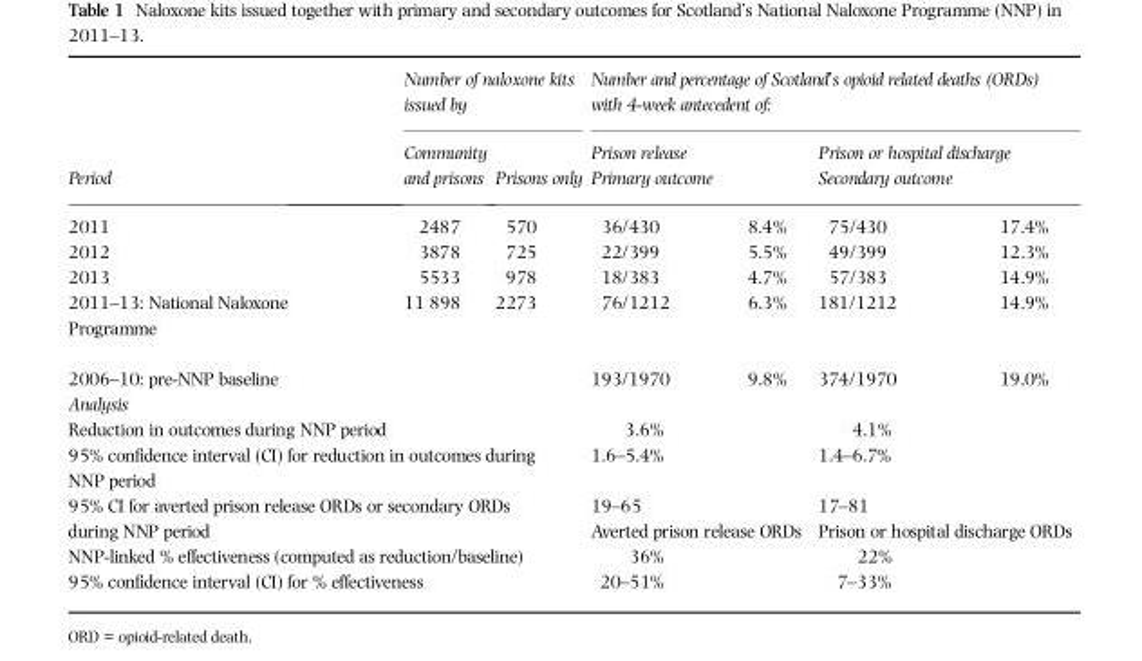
<table><thead><tr><td rowspan="4">Period 2011</td><td colspan="2">Number of naloxone kits issued by</td><td colspan="4">Number and percentage of Scotland’s opioid related deaths (ORDs) with 4-week antecedent of:</td></tr><tr><td rowspan="3">Community and prisons 2487</td><td rowspan="3">Prisons only 570</td><td rowspan="2" colspan="2">Prison release Primary outcome</td><td rowspan="2" colspan="2">Prison or hospital discharge Secondary outcome</td></tr><tr></tr><tr><td>36/430</td><td>8.4%</td><td>75/430</td><td>17.4%</td></tr></thead><tbody><tr><td>2012</td><td>3878</td><td>725</td><td>22/399</td><td>5.5%</td><td>49/399</td><td>12.3%</td></tr><tr><td>2013</td><td>5533</td><td>978</td><td>18/383</td><td>4.7%</td><td>57/383</td><td>14.9%</td></tr><tr><td>2011–13: National Naloxone Programme</td><td>11 898</td><td>2273</td><td>76/1212</td><td>6.3%</td><td>181/1212</td><td>14.9%</td></tr><tr><td>2006–10: pre-NNP baseline</td><td></td><td></td><td>193/1970</td><td>9.8%</td><td>374/1970</td><td>19.0%</td></tr><tr><td colspan="7">Analysis</td></tr><tr><td colspan="3">Reduction in outcomes during NNP period</td><td colspan="2">3.6%</td><td colspan="2">4.1%</td></tr><tr><td colspan="3">95% confidence interval (CI) for reduction in outcomes during NNP period</td><td colspan="2">1.6–5.4%</td><td colspan="2">1.4–6.7%</td></tr><tr><td rowspan="2" colspan="3">95% CI for averted prison release ORDs or secondary ORDs during NNP period</td><td colspan="2">19–65</td><td colspan="2">17–81</td></tr><tr><td colspan="2">Averted prison release ORDs</td><td colspan="2">Prison or hospital discharge ORDs</td></tr><tr><td colspan="3">NNP-linked % effectiveness (computed as reduction/baseline)</td><td colspan="2">36%</td><td colspan="2">22%</td></tr><tr><td colspan="3">95% confidence interval (CI) for % effectiveness</td><td colspan="2">20–51%</td><td colspan="2">7–33%</td></tr></tbody></table>